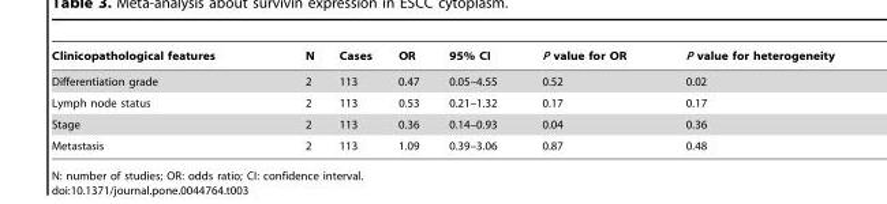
<table><thead><tr><td>Clinicopathological features</td><td>N</td><td>Cases</td><td>OR</td><td>95% CI</td><td>P value for OR</td><td>P value for heterogeneity</td></tr></thead><tbody><tr><td>Differentiation grade</td><td>2</td><td>113</td><td>0.47</td><td>0.05–4.55</td><td>0.52</td><td>0.02</td></tr><tr><td>Lymph node status</td><td>2</td><td>113</td><td>0.53</td><td>0.21–1.32</td><td>0.17</td><td>0.17</td></tr><tr><td>Stage</td><td>2</td><td>113</td><td>0.36</td><td>0.14–0.93</td><td>0.04</td><td>0.36</td></tr><tr><td>Metastasis</td><td>2</td><td>113</td><td>1.09</td><td>0.39–3.06</td><td>0.87</td><td>0.48</td></tr></tbody></table>